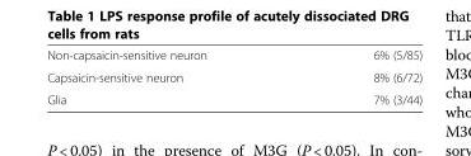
<table><tbody><tr><td>Non-capsaicin-sensitive neuron</td><td>6% (5/85)</td></tr><tr><td>Capsaicin-sensitive neuron</td><td>8% (6/72)</td></tr><tr><td>Glia</td><td>7% (3/44)</td></tr></tbody></table>